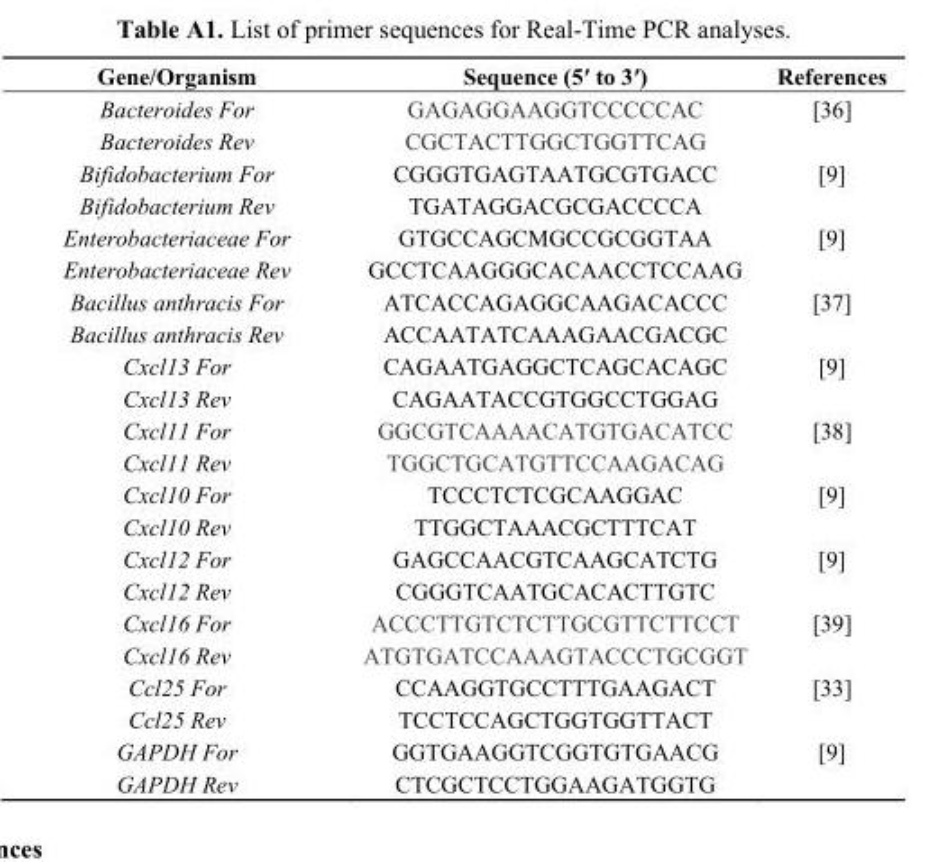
<table><thead><tr><td>Gene/Organism</td><td>Sequence (5ʹ to 3ʹ)</td><td>References</td></tr></thead><tbody><tr><td>Bacteroides For</td><td>GAGAGGAAGGTCCCCCAC</td><td>[36]</td></tr><tr><td>Bacteroides Rev</td><td>CGCTACTTGGCTGGTTCAG</td><td></td></tr><tr><td>Bifidobacterium For</td><td>CGGGTGAGTAATGCGTGACC</td><td>[9]</td></tr><tr><td>Bifidobacterium Rev</td><td>TGATAGGACGCGACCCCA</td><td></td></tr><tr><td>Enterobacteriaceae For</td><td>GTGCCAGCMGCCGCGGTAA</td><td>[9]</td></tr><tr><td>Enterobacteriaceae Rev</td><td>GCCTCAAGGGCACAACCTCCAAG</td><td></td></tr><tr><td>Bacillus anthracis For</td><td>ATCACCAGAGGCAAGACACCC</td><td>[37]</td></tr><tr><td>Bacillus anthracis Rev</td><td>ACCAATATCAAAGAACGACGC</td><td></td></tr><tr><td>Cxcl13 For</td><td>CAGAATGAGGCTCAGCACAGC</td><td>[9]</td></tr><tr><td>Cxcl13 Rev</td><td>CAGAATACCGTGGCCTGGAG</td><td></td></tr><tr><td>Cxcl11 For</td><td>GGCGTCAAAACATGTGACATCC</td><td>[38]</td></tr><tr><td>Cxcl11 Rev</td><td>TGGCTGCATGTTCCAAGACAG</td><td></td></tr><tr><td>Cxcl10 For</td><td>TCCCTCTCGCAAGGAC</td><td>[9]</td></tr><tr><td>Cxcl10 Rev</td><td>TTGGCTAAACGCTTTCAT</td><td></td></tr><tr><td>Cxcl12 For</td><td>GAGCCAACGTCAAGCATCTG</td><td>[9]</td></tr><tr><td>Cxcl12 Rev</td><td>CGGGTCAATGCACACTTGTC</td><td></td></tr><tr><td>Cxcl16 For</td><td>ACCCTTGTCTCTTGCGTTCTTCCT</td><td>[39]</td></tr><tr><td>Cxcl16 Rev</td><td>ATGTGATCCAAAGTACCCTGCGGT</td><td></td></tr><tr><td>Ccl25 For</td><td>CCAAGGTGCCTTTGAAGACT</td><td>[33]</td></tr><tr><td>Ccl25 Rev</td><td>TCCTCCAGCTGGTGGTTACT</td><td></td></tr><tr><td>GAPDH For</td><td>GGTGAAGGTCGGTGTGAACG</td><td>[9]</td></tr><tr><td>GAPDH Rev</td><td>CTCGCTCCTGGAAGATGGTG</td><td></td></tr></tbody></table>